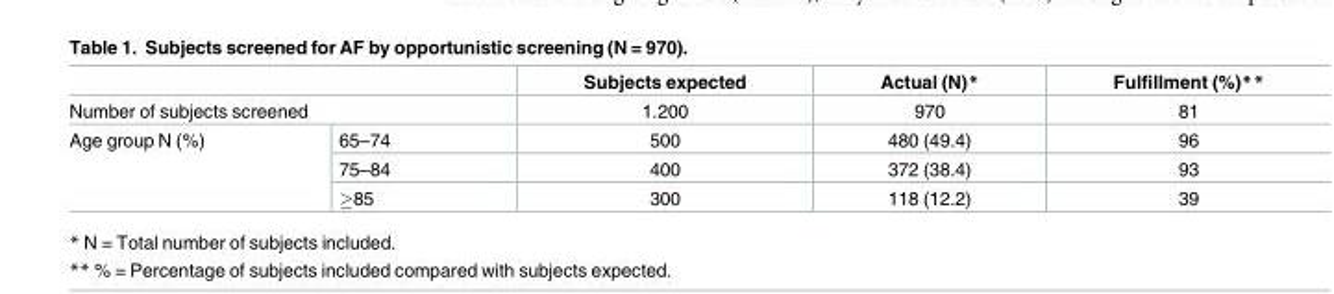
<table><thead><tr><td></td><td></td><td>Subjects expected</td><td>Actual (N)*</td><td>Fulfillment (%)**</td></tr></thead><tbody><tr><td colspan="2">Number of subjects screened</td><td>1.200</td><td>970</td><td>81</td></tr><tr><td rowspan="3">Age group N (%)</td><td>65–74</td><td>500</td><td>480 (49.4)</td><td>96</td></tr><tr><td>75–84</td><td>400</td><td>372 (38.4)</td><td>93</td></tr><tr><td>≥85</td><td>300</td><td>118 (12.2)</td><td>39</td></tr></tbody></table>